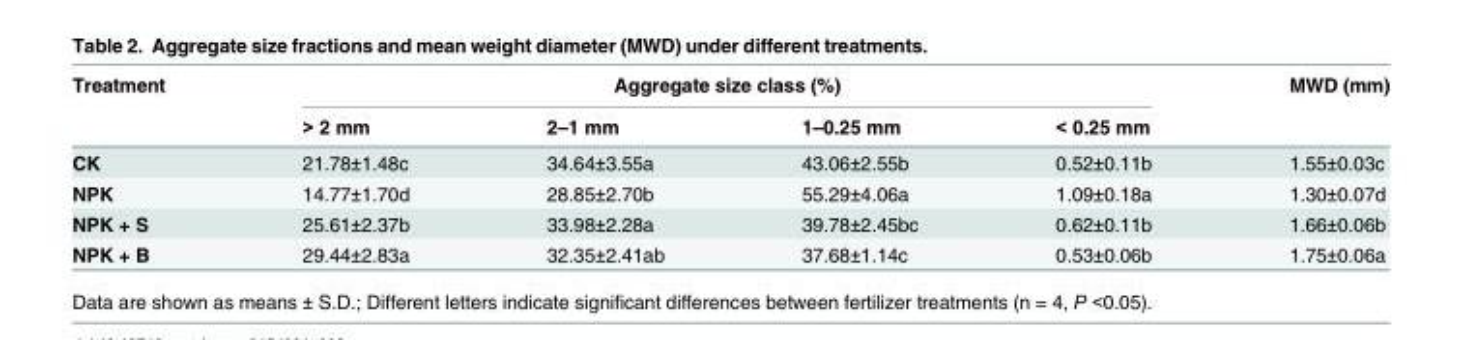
<table><thead><tr><td rowspan="2">Treatment</td><td colspan="4">Aggregate size class (%)</td><td rowspan="2">MWD (mm)</td></tr><tr><td>&gt; 2 mm</td><td>2–1 mm</td><td>1–0.25 mm</td><td>&lt; 0.25 mm</td></tr></thead><tbody><tr><td>CK</td><td>21.78±1.48c</td><td>34.64±3.55a</td><td>43.06±2.55b</td><td>0.52±0.11b</td><td>1.55±0.03c</td></tr><tr><td>NPK</td><td>14.77±1.70d</td><td>28.85±2.70b</td><td>55.29±4.06a</td><td>1.09±0.18a</td><td>1.30±0.07d</td></tr><tr><td>NPK + S</td><td>25.61±2.37b</td><td>33.98±2.28a</td><td>39.78±2.45bc</td><td>0.62±0.11b</td><td>1.66±0.06b</td></tr><tr><td>NPK + B</td><td>29.44±2.83a</td><td>32.35±2.41ab</td><td>37.68±1.14c</td><td>0.53±0.06b</td><td>1.75±0.06a</td></tr></tbody></table>